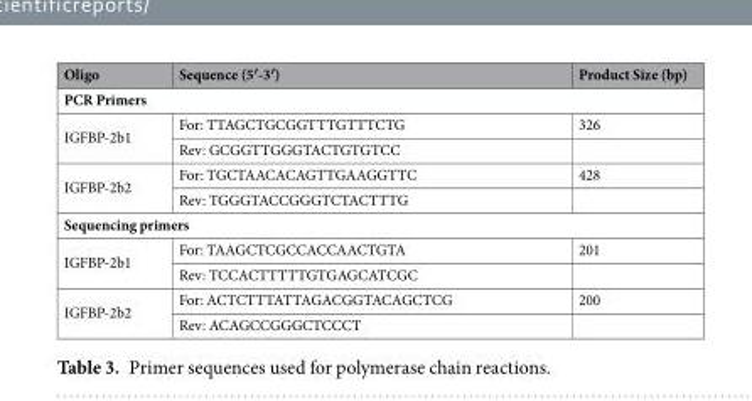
<table><thead><tr><td>Oligo</td><td>Sequence (5′-3′)</td><td>Product Size (bp)</td></tr></thead><tbody><tr><td colspan="3">PCR Primers</td></tr><tr><td rowspan="2">IGFBP-2b1</td><td>For: TTAGCTGCGGTTTGTTTCTG</td><td>326</td></tr><tr><td>Rev: GCGGTTGGGTACTGTGTCC</td><td></td></tr><tr><td rowspan="2">IGFBP-2b2</td><td>For: TGCTAACACAGTTGAAGGTTC</td><td>428</td></tr><tr><td>Rev: TGGGTACCGGGTCTACTTTG</td><td></td></tr><tr><td colspan="3">Sequencing primers</td></tr><tr><td rowspan="2">IGFBP-2b1</td><td>For: TAAGCTCGCCACCAACTGTA</td><td>201</td></tr><tr><td>Rev: TCCACTTTTTGTGAGCATCGC</td><td></td></tr><tr><td rowspan="2">IGFBP-2b2</td><td>For: ACTCTTTATTAGACGGTACAGCTCG</td><td>200</td></tr><tr><td>Rev: ACAGCCGGGCTCCCT</td><td></td></tr></tbody></table>